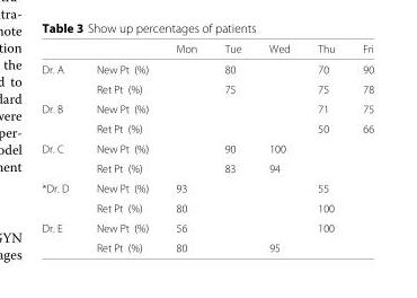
<table><thead><tr><td></td><td></td><td>Mon</td><td>Tue</td><td>Wed</td><td>Thu</td><td>Fri</td></tr></thead><tbody><tr><td rowspan="2">Dr. A</td><td>New Pt (%)</td><td></td><td>80</td><td></td><td>70</td><td>90</td></tr><tr><td>Ret Pt (%)</td><td></td><td>75</td><td></td><td>75</td><td>78</td></tr><tr><td rowspan="2">Dr. B</td><td>New Pt (%)</td><td></td><td></td><td></td><td>71</td><td>75</td></tr><tr><td>Ret Pt (%)</td><td></td><td></td><td></td><td>50</td><td>66</td></tr><tr><td rowspan="2">Dr. C</td><td>New Pt (%)</td><td></td><td>90</td><td>100</td><td></td><td></td></tr><tr><td>Ret Pt (%)</td><td></td><td>83</td><td>94</td><td></td><td></td></tr><tr><td rowspan="2">*Dr. D</td><td>New Pt (%)</td><td>93</td><td></td><td></td><td>55</td><td></td></tr><tr><td>Ret Pt (%)</td><td>80</td><td></td><td></td><td>100</td><td></td></tr><tr><td rowspan="2">Dr. E</td><td>New Pt (%)</td><td>56</td><td></td><td></td><td>100</td><td></td></tr><tr><td>Ret Pt (%)</td><td>80</td><td></td><td>95</td><td></td><td></td></tr></tbody></table>